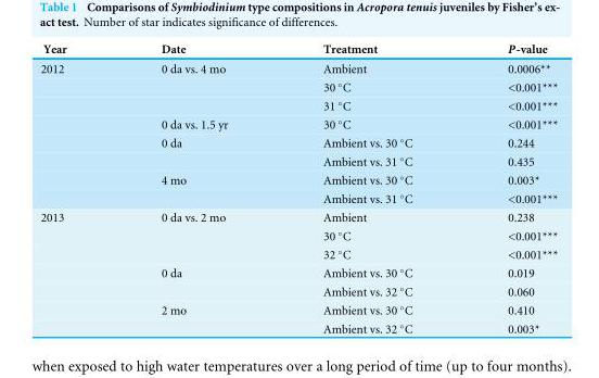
<table><thead><tr><td>Year</td><td>Date</td><td>Treatment</td><td>P-value</td></tr></thead><tbody><tr><td rowspan="8">2012</td><td>0 da vs. 4 mo</td><td>Ambient</td><td>0.0006**</td></tr><tr><td></td><td>30 ◦C</td><td>&lt;0.001***</td></tr><tr><td></td><td>31 ◦C</td><td>&lt;0.001***</td></tr><tr><td>0 da vs. 1.5 yr</td><td>30 ◦C</td><td>&lt;0.001***</td></tr><tr><td>0 da</td><td>Ambient vs. 30 ◦C</td><td>0.244</td></tr><tr><td></td><td>Ambient vs. 31 ◦C</td><td>0.435</td></tr><tr><td>4 mo</td><td>Ambient vs. 30 ◦C</td><td>0.003*</td></tr><tr><td></td><td>Ambient vs. 31 ◦C</td><td>&lt;0.001***</td></tr><tr><td rowspan="7">2013</td><td>0 da vs. 2 mo</td><td>Ambient</td><td>0.238</td></tr><tr><td></td><td>30 ◦C</td><td>&lt;0.001***</td></tr><tr><td></td><td>32 ◦C</td><td>&lt;0.001***</td></tr><tr><td>0 da</td><td>Ambient vs. 30 ◦C</td><td>0.019</td></tr><tr><td></td><td>Ambient vs. 32 ◦C</td><td>0.060</td></tr><tr><td>2 mo</td><td>Ambient vs. 30 ◦C</td><td>0.410</td></tr><tr><td></td><td>Ambient vs. 32 ◦C</td><td>0.003*</td></tr></tbody></table>